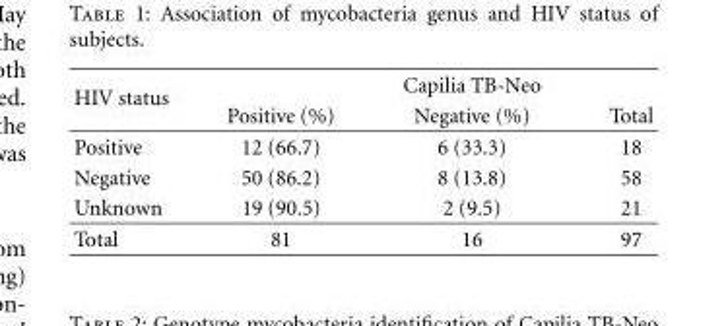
<table><thead><tr><td rowspan="2">HIV status</td><td rowspan="2">Positive (%)</td><td rowspan="2">Capilia TB-Neo Negative (%)</td><td rowspan="2">Total</td></tr><tr></tr></thead><tbody><tr><td>Positive</td><td>12 (66.7)</td><td>6 (33.3)</td><td>18</td></tr><tr><td>Negative</td><td>50 (86.2)</td><td>8 (13.8)</td><td>58</td></tr><tr><td>Unknown</td><td>19 (90.5)</td><td>2 (9.5)</td><td>21</td></tr><tr><td>Total</td><td>81</td><td>16</td><td>97</td></tr></tbody></table>